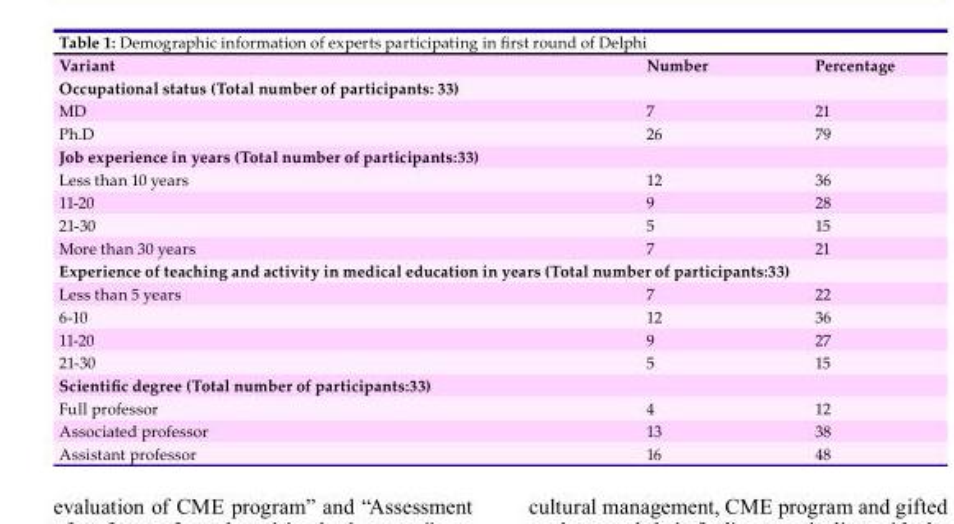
<table><thead><tr><td>Variant</td><td>Number</td><td>Percentage</td></tr></thead><tbody><tr><td colspan="3">Occupational status (Total number of participants: 33)</td></tr><tr><td>MD</td><td>7</td><td>21</td></tr><tr><td>Ph.D</td><td>26</td><td>79</td></tr><tr><td colspan="3">Job experience in years (Total number of participants:33)</td></tr><tr><td>Less than 10 years</td><td>12</td><td>36</td></tr><tr><td>11-20</td><td>9</td><td>28</td></tr><tr><td>21-30</td><td>5</td><td>15</td></tr><tr><td>More than 30 years</td><td>7</td><td>21</td></tr><tr><td colspan="3">Experience of teaching and activity in medical education in years (Total number of participants:33)</td></tr><tr><td>Less than 5 years</td><td>7</td><td>22</td></tr><tr><td>6-10</td><td>12</td><td>36</td></tr><tr><td>11-20</td><td>9</td><td>27</td></tr><tr><td>21-30</td><td>5</td><td>15</td></tr><tr><td colspan="3">Scientific degree (Total number of participants:33)</td></tr><tr><td>Full professor</td><td>4</td><td>12</td></tr><tr><td>Associated professor</td><td>13</td><td>38</td></tr><tr><td>Assistant professor</td><td>16</td><td>48</td></tr></tbody></table>